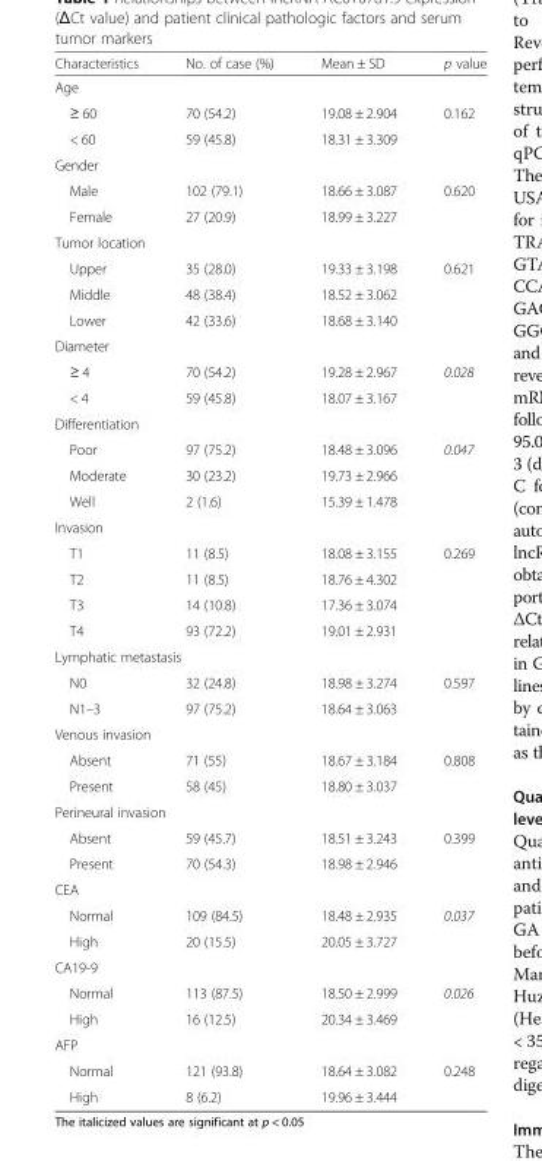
<table><thead><tr><td>Characteristics</td><td>No. of case (%)</td><td>Mean ± SD</td><td>p value</td></tr></thead><tbody><tr><td colspan="4">Age</td></tr><tr><td>≥ 60</td><td>70 (54.2)</td><td>19.08 ± 2.904</td><td>0.162</td></tr><tr><td>&lt; 60</td><td>59 (45.8)</td><td>18.31 ± 3.309</td><td></td></tr><tr><td colspan="4">Gender</td></tr><tr><td>Male</td><td>102 (79.1)</td><td>18.66 ± 3.087</td><td>0.620</td></tr><tr><td>Female</td><td>27 (20.9)</td><td>18.99 ± 3.227</td><td></td></tr><tr><td colspan="4">Tumor location</td></tr><tr><td>Upper</td><td>35 (28.0)</td><td>19.33 ± 3.198</td><td>0.621</td></tr><tr><td>Middle</td><td>48 (38.4)</td><td>18.52 ± 3.062</td><td></td></tr><tr><td>Lower</td><td>42 (33.6)</td><td>18.68 ± 3.140</td><td></td></tr><tr><td colspan="4">Diameter</td></tr><tr><td>≥ 4</td><td>70 (54.2)</td><td>19.28 ± 2.967</td><td>0.028</td></tr><tr><td>&lt; 4</td><td>59 (45.8)</td><td>18.07 ± 3.167</td><td></td></tr><tr><td colspan="4">Differentiation</td></tr><tr><td>Poor</td><td>97 (75.2)</td><td>18.48 ± 3.096</td><td>0.047</td></tr><tr><td>Moderate</td><td>30 (23.2)</td><td>19.73 ± 2.966</td><td></td></tr><tr><td>Well</td><td>2 (1.6)</td><td>15.39 ± 1.478</td><td></td></tr><tr><td colspan="4">Invasion</td></tr><tr><td>T1</td><td>11 (8.5)</td><td>18.08 ± 3.155</td><td>0.269</td></tr><tr><td>T2</td><td>11 (8.5)</td><td>18.76 ± 4.302</td><td></td></tr><tr><td>T3</td><td>14 (10.8)</td><td>17.36 ± 3.074</td><td></td></tr><tr><td>T4</td><td>93 (72.2)</td><td>19.01 ± 2.931</td><td></td></tr><tr><td colspan="4">Lymphatic metastasis</td></tr><tr><td>N0</td><td>32 (24.8)</td><td>18.98 ± 3.274</td><td>0.597</td></tr><tr><td>N1–3</td><td>97 (75.2)</td><td>18.64 ± 3.063</td><td></td></tr><tr><td colspan="4">Venous invasion</td></tr><tr><td>Absent</td><td>71 (55)</td><td>18.67 ± 3.184</td><td>0.808</td></tr><tr><td>Present</td><td>58 (45)</td><td>18.80 ± 3.037</td><td></td></tr><tr><td colspan="4">Perineural invasion</td></tr><tr><td>Absent</td><td>59 (45.7)</td><td>18.51 ± 3.243</td><td>0.399</td></tr><tr><td>Present</td><td>70 (54.3)</td><td>18.98 ± 2.946</td><td></td></tr><tr><td colspan="4">CEA</td></tr><tr><td>Normal</td><td>109 (84.5)</td><td>18.48 ± 2.935</td><td>0.037</td></tr><tr><td>High</td><td>20 (15.5)</td><td>20.05 ± 3.727</td><td></td></tr><tr><td colspan="4">CA19-9</td></tr><tr><td>Normal</td><td>113 (87.5)</td><td>18.50 ± 2.999</td><td>0.026</td></tr><tr><td>High</td><td>16 (12.5)</td><td>20.34 ± 3.469</td><td></td></tr><tr><td colspan="4">AFP</td></tr><tr><td>Normal</td><td>121 (93.8)</td><td>18.64 ± 3.082</td><td>0.248</td></tr><tr><td>High</td><td>8 (6.2)</td><td>19.96 ± 3.444</td><td></td></tr></tbody></table>